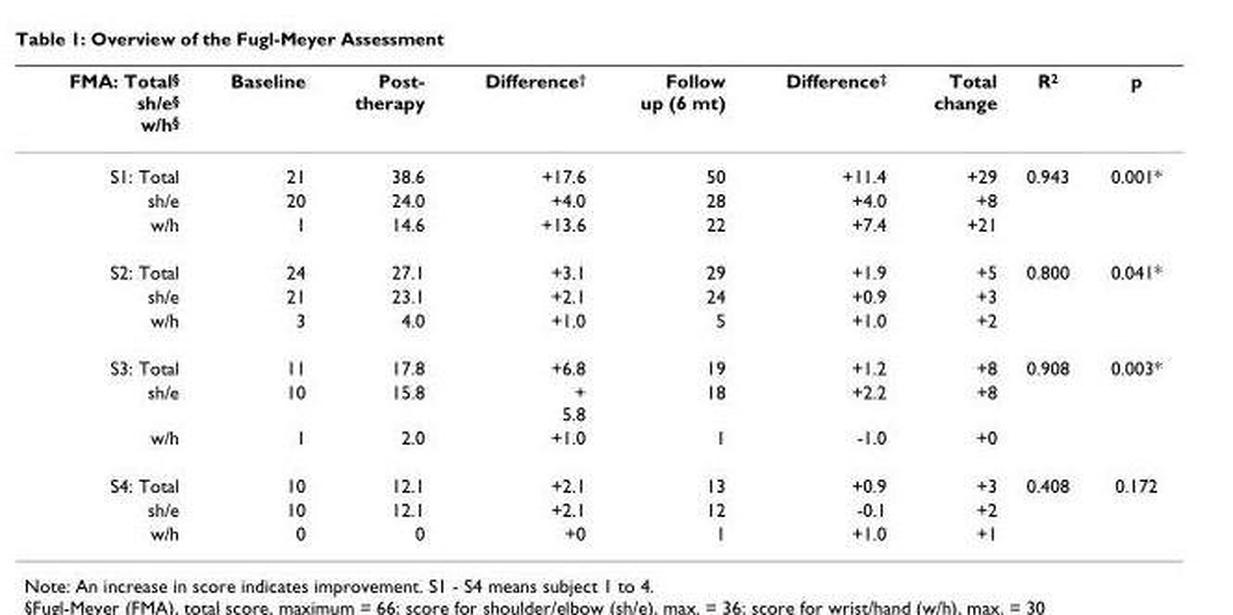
<table><thead><tr><td>FMA: Total<sup>§</sup> sh/e<sup>§</sup> w/h<sup>§</sup></td><td>Baseline</td><td>Post- therapy</td><td>Difference<sup>†</sup></td><td>Follow up (6 mt)</td><td>Difference<sup>‡</sup></td><td>Total change</td><td>R<sup>2</sup></td><td>p</td></tr></thead><tbody><tr><td>S1: Total</td><td>21</td><td>38.6</td><td>+17.6</td><td>50</td><td>+11.4</td><td>+29</td><td>0.943</td><td>0.001*</td></tr><tr><td>sh/e</td><td>20</td><td>24.0</td><td>+4.0</td><td>28</td><td>+4.0</td><td>+8</td><td></td><td></td></tr><tr><td>w/h</td><td>1</td><td>14.6</td><td>+13.6</td><td>22</td><td>+7.4</td><td>+21</td><td></td><td></td></tr><tr><td>S2: Total</td><td>24</td><td>27.1</td><td>+3.1</td><td>29</td><td>+1.9</td><td>+5</td><td>0.800</td><td>0.041*</td></tr><tr><td>sh/e</td><td>21</td><td>23.1</td><td>+2.1</td><td>24</td><td>+0.9</td><td>+3</td><td></td><td></td></tr><tr><td>w/h</td><td>3</td><td>4.0</td><td>+1.0</td><td>5</td><td>+1.0</td><td>+2</td><td></td><td></td></tr><tr><td>S3: Total</td><td>11</td><td>17.8</td><td>+6.8</td><td>19</td><td>+1.2</td><td>+8</td><td>0.908</td><td>0.003*</td></tr><tr><td>sh/e</td><td>10</td><td>15.8</td><td>+ 5.8</td><td>18</td><td>+2.2</td><td>+8</td><td></td><td></td></tr><tr><td>w/h</td><td>1</td><td>2.0</td><td>+1.0</td><td>1</td><td>-1.0</td><td>+0</td><td></td><td></td></tr><tr><td>S4: Total</td><td>10</td><td>12.1</td><td>+2.1</td><td>13</td><td>+0.9</td><td>+3</td><td>0.408</td><td>0.172</td></tr><tr><td>sh/e</td><td>10</td><td>12.1</td><td>+2.1</td><td>12</td><td>-0.1</td><td>+2</td><td></td><td></td></tr><tr><td>w/h</td><td>0</td><td>0</td><td>+0</td><td>1</td><td>+1.0</td><td>+1</td><td></td><td></td></tr></tbody></table>